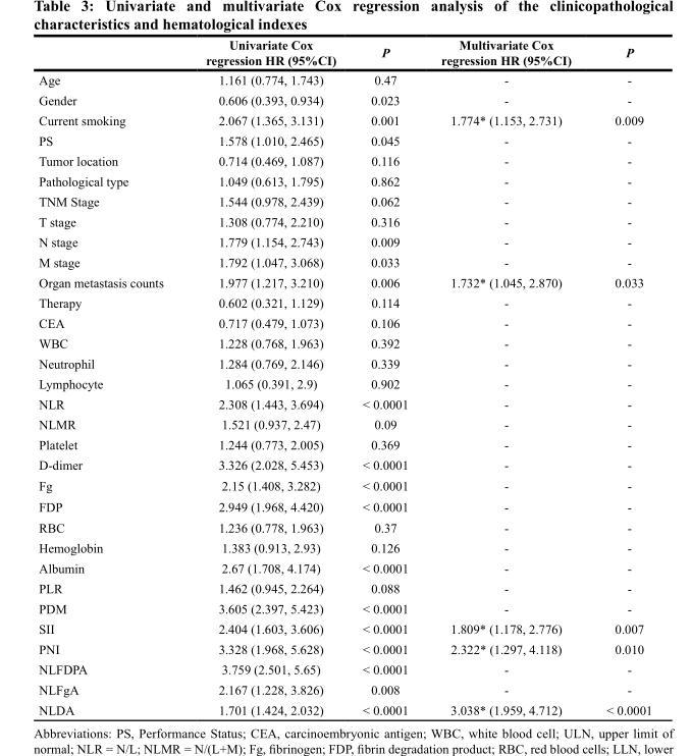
<table><thead><tr><td></td><td>Univariate Cox regression HR (95%CI)</td><td>P</td><td>Multivariate Cox regression HR (95%CI)</td><td>P</td></tr></thead><tbody><tr><td>Age</td><td>1.161 (0.774, 1.743)</td><td>0.47</td><td>-</td><td>-</td></tr><tr><td>Gender</td><td>0.606 (0.393, 0.934)</td><td>0.023</td><td>-</td><td>-</td></tr><tr><td>Current smoking</td><td>2.067 (1.365, 3.131)</td><td>0.001</td><td>1.774* (1.153, 2.731)</td><td>0.009</td></tr><tr><td>PS</td><td>1.578 (1.010, 2.465)</td><td>0.045</td><td>-</td><td>-</td></tr><tr><td>Tumor location</td><td>0.714 (0.469, 1.087)</td><td>0.116</td><td>-</td><td>-</td></tr><tr><td>Pathological type</td><td>1.049 (0.613, 1.795)</td><td>0.862</td><td>-</td><td>-</td></tr><tr><td>TNM Stage</td><td>1.544 (0.978, 2.439)</td><td>0.062</td><td>-</td><td>-</td></tr><tr><td>T stage</td><td>1.308 (0.774, 2.210)</td><td>0.316</td><td>-</td><td>-</td></tr><tr><td>N stage</td><td>1.779 (1.154, 2.743)</td><td>0.009</td><td>-</td><td>-</td></tr><tr><td>M stage</td><td>1.792 (1.047, 3.068)</td><td>0.033</td><td>-</td><td>-</td></tr><tr><td>Organ metastasis counts</td><td>1.977 (1.217, 3.210)</td><td>0.006</td><td>1.732* (1.045, 2.870)</td><td>0.033</td></tr><tr><td>Therapy</td><td>0.602 (0.321, 1.129)</td><td>0.114</td><td>-</td><td>-</td></tr><tr><td>CEA</td><td>0.717 (0.479, 1.073)</td><td>0.106</td><td>-</td><td>-</td></tr><tr><td>WBC</td><td>1.228 (0.768, 1.963)</td><td>0.392</td><td>-</td><td>-</td></tr><tr><td>Neutrophil</td><td>1.284 (0.769, 2.146)</td><td>0.339</td><td>-</td><td>-</td></tr><tr><td>Lymphocyte</td><td>1.065 (0.391, 2.9)</td><td>0.902</td><td>-</td><td>-</td></tr><tr><td>NLR</td><td>2.308 (1.443, 3.694)</td><td>&lt; 0.0001</td><td>-</td><td>-</td></tr><tr><td>NLMR</td><td>1.521 (0.937, 2.47)</td><td>0.09</td><td>-</td><td>-</td></tr><tr><td>Platelet</td><td>1.244 (0.773, 2.005)</td><td>0.369</td><td>-</td><td>-</td></tr><tr><td>D-dimer</td><td>3.326 (2.028, 5.453)</td><td>&lt; 0.0001</td><td>-</td><td>-</td></tr><tr><td>Fg</td><td>2.15 (1.408, 3.282)</td><td>&lt; 0.0001</td><td>-</td><td>-</td></tr><tr><td>FDP</td><td>2.949 (1.968, 4.420)</td><td>&lt; 0.0001</td><td>-</td><td>-</td></tr><tr><td>RBC</td><td>1.236 (0.778, 1.963)</td><td>0.37</td><td>-</td><td>-</td></tr><tr><td>Hemoglobin</td><td>1.383 (0.913, 2.93)</td><td>0.126</td><td>-</td><td>-</td></tr><tr><td>Albumin</td><td>2.67 (1.708, 4.174)</td><td>&lt; 0.0001</td><td>-</td><td>-</td></tr><tr><td>PLR</td><td>1.462 (0.945, 2.264)</td><td>0.088</td><td>-</td><td>-</td></tr><tr><td>PDM</td><td>3.605 (2.397, 5.423)</td><td>&lt; 0.0001</td><td>-</td><td>-</td></tr><tr><td>SII</td><td>2.404 (1.603, 3.606)</td><td>&lt; 0.0001</td><td>1.809* (1.178, 2.776)</td><td>0.007</td></tr><tr><td>PNI</td><td>3.328 (1.968, 5.628)</td><td>&lt; 0.0001</td><td>2.322* (1.297, 4.118)</td><td>0.010</td></tr><tr><td>NLFDPA</td><td>3.759 (2.501, 5.65)</td><td>&lt; 0.0001</td><td>-</td><td>-</td></tr><tr><td>NLFgA</td><td>2.167 (1.228, 3.826)</td><td>0.008</td><td>-</td><td>-</td></tr><tr><td>NLDA</td><td>1.701 (1.424, 2.032)</td><td>&lt; 0.0001</td><td>3.038* (1.959, 4.712)</td><td>&lt; 0.0001</td></tr></tbody></table>